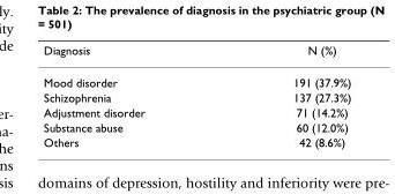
<table><thead><tr><td>Diagnosis</td><td>N (%)</td></tr></thead><tbody><tr><td>Mood disorder</td><td>191 (37.9%)</td></tr><tr><td>Schizophrenia</td><td>137 (27.3%)</td></tr><tr><td>Adjustment disorder</td><td>71 (14.2%)</td></tr><tr><td>Substance abuse</td><td>60 (12.0%)</td></tr><tr><td>Others</td><td>42 (8.6%)</td></tr></tbody></table>